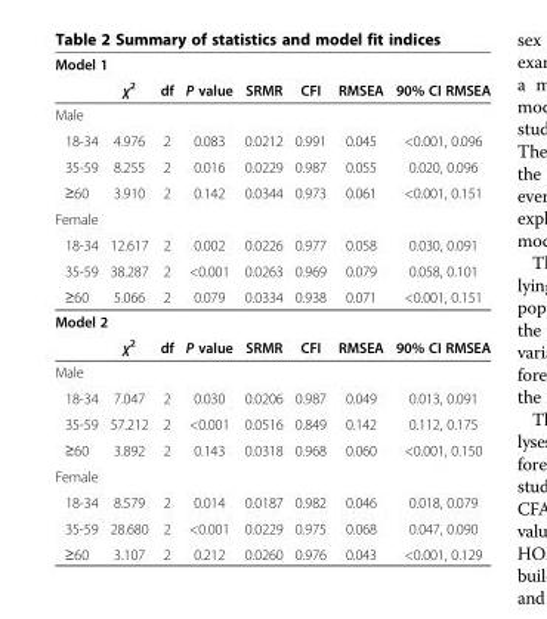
<table><tbody><tr><td colspan="8">Model 1</td></tr><tr><td></td><td>χ<sup>2</sup></td><td>df</td><td>P value</td><td>SRMR</td><td>CFI</td><td>RMSEA</td><td>90% CI RMSEA</td></tr><tr><td colspan="8">Male</td></tr><tr><td>18-34</td><td>4.976</td><td>2</td><td>0.083</td><td>0.0212</td><td>0.991</td><td>0.045</td><td>&lt;0.001, 0.096</td></tr><tr><td>35-59</td><td>8.255</td><td>2</td><td>0.016</td><td>0.0229</td><td>0.987</td><td>0.055</td><td>0.020, 0.096</td></tr><tr><td>≥60</td><td>3.910</td><td>2</td><td>0.142</td><td>0.0344</td><td>0.973</td><td>0.061</td><td>&lt;0.001, 0.151</td></tr><tr><td colspan="8">Female</td></tr><tr><td>18-34</td><td>12.617</td><td>2</td><td>0.002</td><td>0.0226</td><td>0.977</td><td>0.058</td><td>0.030, 0.091</td></tr><tr><td>35-59</td><td>38.287</td><td>2</td><td>&lt;0.001</td><td>0.0263</td><td>0.969</td><td>0.079</td><td>0.058, 0.101</td></tr><tr><td>≥60</td><td>5.066</td><td>2</td><td>0.079</td><td>0.0334</td><td>0.938</td><td>0.071</td><td>&lt;0.001, 0.151</td></tr><tr><td colspan="8">Model 2</td></tr><tr><td></td><td>χ<sup>2</sup></td><td>df</td><td>P value</td><td>SRMR</td><td>CFI</td><td>RMSEA</td><td>90% CI RMSEA</td></tr><tr><td colspan="8">Male</td></tr><tr><td>18-34</td><td>7.047</td><td>2</td><td>0.030</td><td>0.0206</td><td>0.987</td><td>0.049</td><td>0.013, 0.091</td></tr><tr><td>35-59</td><td>57.212</td><td>2</td><td>&lt;0.001</td><td>0.0516</td><td>0.849</td><td>0.142</td><td>0.112, 0.175</td></tr><tr><td>≥60</td><td>3.892</td><td>2</td><td>0.143</td><td>0.0318</td><td>0.968</td><td>0.060</td><td>&lt;0.001, 0.150</td></tr><tr><td colspan="8">Female</td></tr><tr><td>18-34</td><td>8.579</td><td>2</td><td>0.014</td><td>0.0187</td><td>0.982</td><td>0.046</td><td>0.018, 0.079</td></tr><tr><td>35-59</td><td>28.680</td><td>2</td><td>&lt;0.001</td><td>0.0229</td><td>0.975</td><td>0.068</td><td>0.047, 0.090</td></tr><tr><td>≥60</td><td>3.107</td><td>2</td><td>0.212</td><td>0.0260</td><td>0.976</td><td>0.043</td><td>&lt;0.001, 0.129</td></tr></tbody></table>